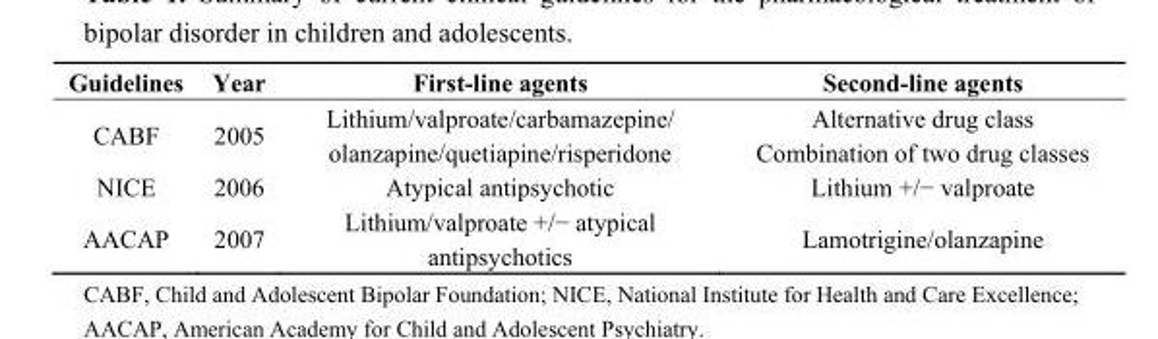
<table><thead><tr><td>Guidelines</td><td>Year</td><td>First-line agents</td><td>Second-line agents</td></tr></thead><tbody><tr><td>CABF</td><td>2005</td><td>Lithium/valproate/carbamazepine/ olanzapine/quetiapine/risperidone</td><td>Alternative drug class Combination of two drug classes</td></tr><tr><td>NICE</td><td>2006</td><td>Atypical antipsychotic</td><td>Lithium +/− valproate</td></tr><tr><td>AACAP</td><td>2007</td><td>Lithium/valproate +/− atypical antipsychotics</td><td>Lamotrigine/olanzapine</td></tr></tbody></table>